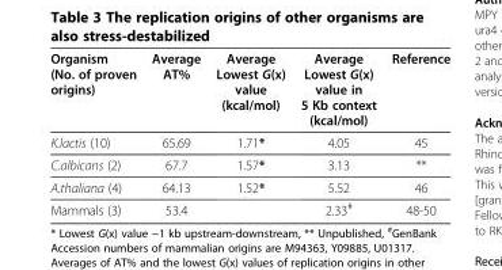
<table><thead><tr><td>Organism (No. of proven origins)</td><td>Average AT%</td><td>Average Lowest G(x) value (kcal/mol)</td><td>Average Lowest G(x) value in 5 Kb context (kcal/mol)</td><td>Reference</td></tr></thead><tbody><tr><td>K.lactis (10)</td><td>65.69</td><td>1.71*</td><td>4.05</td><td>45</td></tr><tr><td>C.albicans (2)</td><td>67.7</td><td>1.57*</td><td>3.13</td><td>**</td></tr><tr><td>A.thaliana (4)</td><td>64.13</td><td>1.52*</td><td>5.52</td><td>46</td></tr><tr><td>Mammals (3)</td><td>53.4</td><td></td><td>2.33<sup>#</sup></td><td>48-50</td></tr></tbody></table>